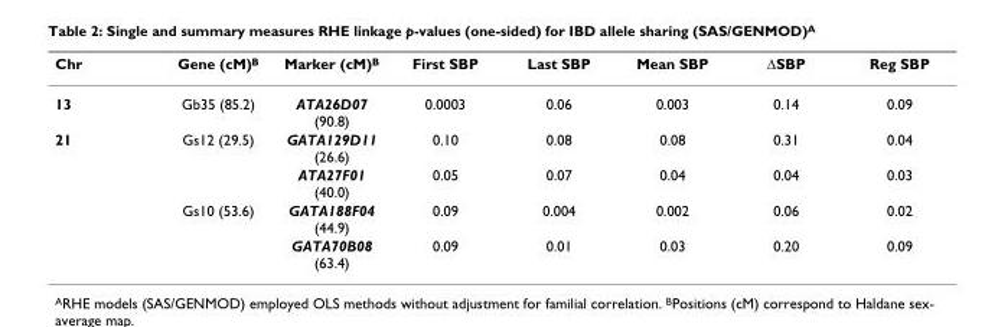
<table><thead><tr><td>Chr</td><td>Gene (cM)B</td><td>Marker (cM)B</td><td>First SBP</td><td>Last SBP</td><td>Mean SBP</td><td>∆SBP</td><td>Reg SBP</td></tr></thead><tbody><tr><td>13</td><td>Gb35 (85.2)</td><td>ATA26D07 (90.8)</td><td>0.0003</td><td>0.06</td><td>0.003</td><td>0.14</td><td>0.09</td></tr><tr><td rowspan="4">21</td><td>Gs12 (29.5)</td><td>GATA129D11 (26.6)</td><td>0.10</td><td>0.08</td><td>0.08</td><td>0.31</td><td>0.04</td></tr><tr><td></td><td>ATA27F01 (40.0)</td><td>0.05</td><td>0.07</td><td>0.04</td><td>0.04</td><td>0.03</td></tr><tr><td>Gs10 (53.6)</td><td>GATA188F04 (44.9)</td><td>0.09</td><td>0.004</td><td>0.002</td><td>0.06</td><td>0.02</td></tr><tr><td></td><td>GATA70B08 (63.4)</td><td>0.09</td><td>0.01</td><td>0.03</td><td>0.20</td><td>0.09</td></tr></tbody></table>